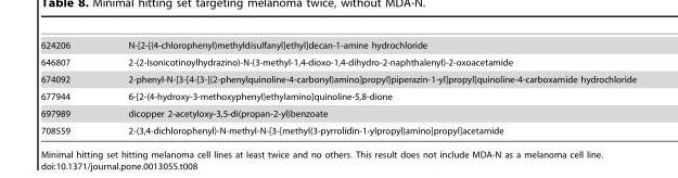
<table><tbody><tr><td>624206</td><td>N-[2-[(4-chlorophenyl)methyldisulfanyl]ethyl]decan-1-amine hydrochloride</td></tr><tr><td>646807</td><td>2-(2-Isonicotinoylhydrazino)-N-(3-methyl-1,4-dioxo-1,4-dihydro-2-naphthalenyl)-2-oxoacetamide</td></tr><tr><td>674092</td><td>2-phenyl-N-[3-[4-[3-[(2-phenylquinoline-4-carbonyl)amino]propyl]piperazin-1-yl]propyl]quinoline-4-carboxamide hydrochloride</td></tr><tr><td>677944</td><td>6-[2-(4-hydroxy-3-methoxyphenyl)ethylamino]quinoline-5,8-dione</td></tr><tr><td>697989</td><td>dicopper 2-acetyloxy-3,5-di(propan-2-yl)benzoate</td></tr><tr><td>708559</td><td>2-(3,4-dichlorophenyl)-N-methyl-N-[3-[methyl(3-pyrrolidin-1-ylpropyl)amino]propyl]acetamide</td></tr></tbody></table>